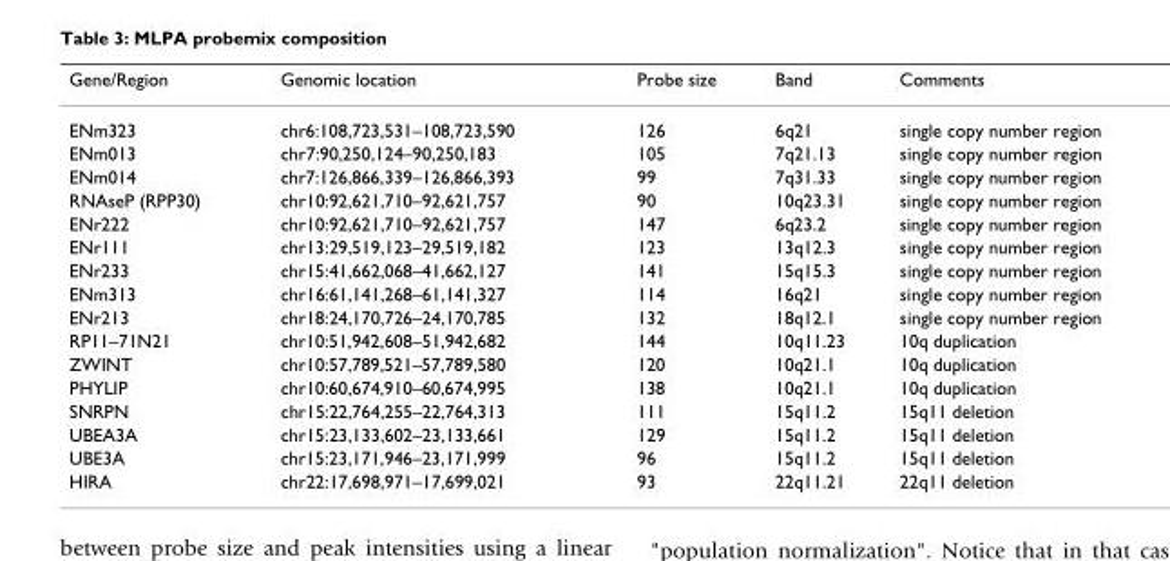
<table><thead><tr><td>Gene/Region</td><td>Genomic location</td><td>Probe size</td><td>Band</td><td>Comments</td></tr></thead><tbody><tr><td>ENm323</td><td>chr6:108,723,531–108,723,590</td><td>126</td><td>6q21</td><td>single copy number region</td></tr><tr><td>ENm013</td><td>chr7:90,250,124–90,250,183</td><td>105</td><td>7q21.13</td><td>single copy number region</td></tr><tr><td>ENm014</td><td>chr7:126,866,339–126,866,393</td><td>99</td><td>7q31.33</td><td>single copy number region</td></tr><tr><td>RNAseP (RPP30)</td><td>chr10:92,621,710–92,621,757</td><td>90</td><td>10q23.31</td><td>single copy number region</td></tr><tr><td>ENr222</td><td>chr10:92,621,710–92,621,757</td><td>147</td><td>6q23.2</td><td>single copy number region</td></tr><tr><td>ENr111</td><td>chr13:29,519,123–29,519,182</td><td>123</td><td>13q12.3</td><td>single copy number region</td></tr><tr><td>ENr233</td><td>chr15:41,662,068–41,662,127</td><td>141</td><td>15q15.3</td><td>single copy number region</td></tr><tr><td>ENm313</td><td>chr16:61,141,268–61,141,327</td><td>114</td><td>16q21</td><td>single copy number region</td></tr><tr><td>ENr213</td><td>chr18:24,170,726–24,170,785</td><td>132</td><td>18q12.1</td><td>single copy number region</td></tr><tr><td>RP11–71N21</td><td>chr10:51,942,608–51,942,682</td><td>144</td><td>10q11.23</td><td>10q duplication</td></tr><tr><td>ZWINT</td><td>chr10:57,789,521–57,789,580</td><td>120</td><td>10q21.1</td><td>10q duplication</td></tr><tr><td>PHYLIP</td><td>chr10:60,674,910–60,674,995</td><td>138</td><td>10q21.1</td><td>10q duplication</td></tr><tr><td>SNRPN</td><td>chr15:22,764,255–22,764,313</td><td>111</td><td>15q11.2</td><td>15q11 deletion</td></tr><tr><td>UBEA3A</td><td>chr15:23,133,602–23,133,661</td><td>129</td><td>15q11.2</td><td>15q11 deletion</td></tr><tr><td>UBE3A</td><td>chr15:23,171,946–23,171,999</td><td>96</td><td>15q11.2</td><td>15q11 deletion</td></tr><tr><td>HIRA</td><td>chr22:17,698,971–17,699,021</td><td>93</td><td>22q11.21</td><td>22q11 deletion</td></tr></tbody></table>